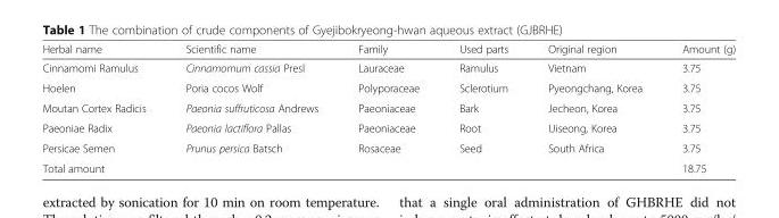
<table><thead><tr><td>Herbal name</td><td>Scientific name</td><td>Family</td><td>Used parts</td><td>Original region</td><td>Amount (g)</td></tr></thead><tbody><tr><td>Cinnamomi Ramulus</td><td>Cinnamomum cassia Presl</td><td>Lauraceae</td><td>Ramulus</td><td>Vietnam</td><td>3.75</td></tr><tr><td>Hoelen</td><td>Poria cocos Wolf</td><td>Polyporaceae</td><td>Sclerotium</td><td>Pyeongchang, Korea</td><td>3.75</td></tr><tr><td>Moutan Cortex Radicis</td><td>Paeonia suffruticosa Andrews</td><td>Paeoniaceae</td><td>Bark</td><td>Jecheon, Korea</td><td>3.75</td></tr><tr><td>Paeoniae Radix</td><td>Paeonia lactiflora Pallas</td><td>Paeoniaceae</td><td>Root</td><td>Uiseong, Korea</td><td>3.75</td></tr><tr><td>Persicae Semen</td><td>Prunus persica Batsch</td><td>Rosaceae</td><td>Seed</td><td>South Africa</td><td>3.75</td></tr><tr><td>Total amount</td><td></td><td></td><td></td><td></td><td>18.75</td></tr></tbody></table>